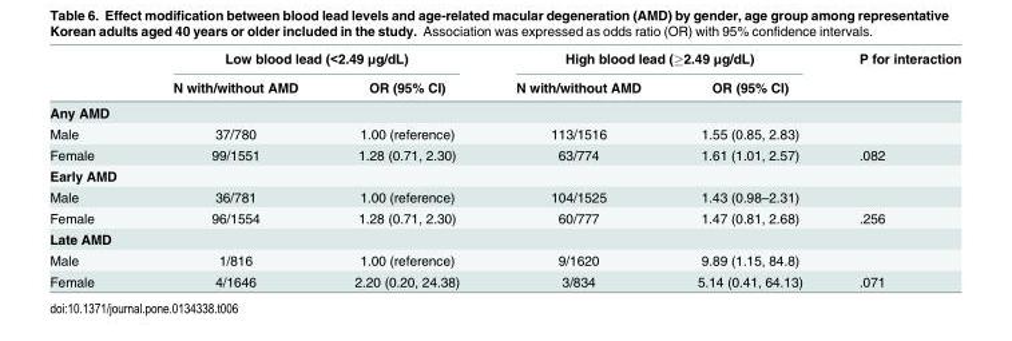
<table><thead><tr><td rowspan="2"></td><td colspan="2">Low blood lead (&lt;2.49 μg/dL)</td><td colspan="2">High blood lead (≥2.49 μg/dL)</td><td rowspan="2">P for interaction</td></tr><tr><td>N with/without AMD</td><td>OR (95% CI)</td><td>N with/without AMD</td><td>OR (95% CI)</td></tr></thead><tbody><tr><td colspan="6">Any AMD</td></tr><tr><td>Male</td><td>37/780</td><td>1.00 (reference)</td><td>113/1516</td><td>1.55 (0.85, 2.83)</td><td></td></tr><tr><td>Female</td><td>99/1551</td><td>1.28 (0.71, 2.30)</td><td>63/774</td><td>1.61 (1.01, 2.57)</td><td>.082</td></tr><tr><td colspan="6">Early AMD</td></tr><tr><td>Male</td><td>36/781</td><td>1.00 (reference)</td><td>104/1525</td><td>1.43 (0.98–2.31)</td><td></td></tr><tr><td>Female</td><td>96/1554</td><td>1.28 (0.71, 2.30)</td><td>60/777</td><td>1.47 (0.81, 2.68)</td><td>.256</td></tr><tr><td colspan="6">Late AMD</td></tr><tr><td>Male</td><td>1/816</td><td>1.00 (reference)</td><td>9/1620</td><td>9.89 (1.15, 84.8)</td><td></td></tr><tr><td>Female</td><td>4/1646</td><td>2.20 (0.20, 24.38)</td><td>3/834</td><td>5.14 (0.41, 64.13)</td><td>.071</td></tr></tbody></table>